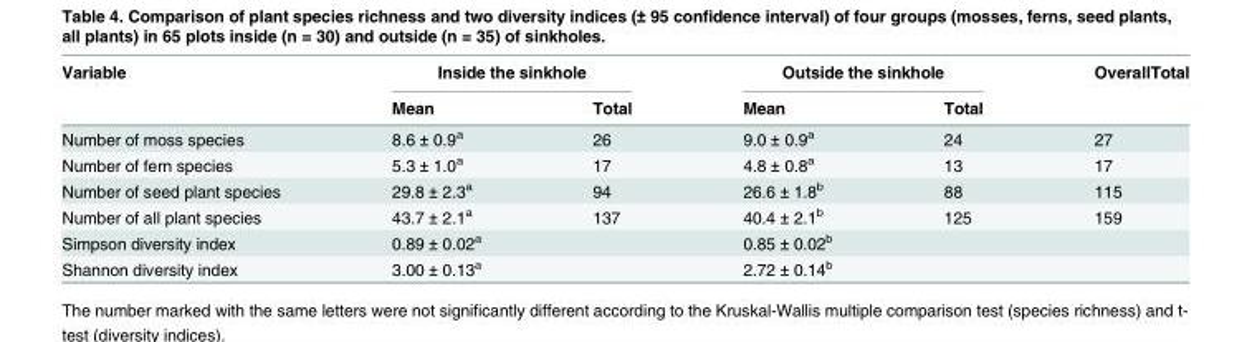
<table><thead><tr><td rowspan="2">Variable</td><td colspan="2">Inside the sinkhole</td><td colspan="2">Outside the sinkhole</td><td rowspan="2">OverallTotal</td></tr><tr><td>Mean</td><td>Total</td><td>Mean</td><td>Total</td></tr></thead><tbody><tr><td>Number of moss species</td><td>8.6 ± 0.9<sup>a</sup></td><td>26</td><td>9.0 ± 0.9<sup>a</sup></td><td>24</td><td>27</td></tr><tr><td>Number of fern species</td><td>5.3 ± 1.0<sup>a</sup></td><td>17</td><td>4.8 ± 0.8<sup>a</sup></td><td>13</td><td>17</td></tr><tr><td>Number of seed plant species</td><td>29.8 ± 2.3<sup>a</sup></td><td>94</td><td>26.6 ± 1.8<sup>b</sup></td><td>88</td><td>115</td></tr><tr><td>Number of all plant species</td><td>43.7 ± 2.1<sup>a</sup></td><td>137</td><td>40.4 ± 2.1<sup>b</sup></td><td>125</td><td>159</td></tr><tr><td>Simpson diversity index</td><td>0.89 ± 0.02<sup>a</sup></td><td></td><td>0.85 ± 0.02<sup>b</sup></td><td></td><td></td></tr><tr><td>Shannon diversity index</td><td>3.00 ± 0.13<sup>a</sup></td><td></td><td>2.72 ± 0.14<sup>b</sup></td><td></td><td></td></tr></tbody></table>